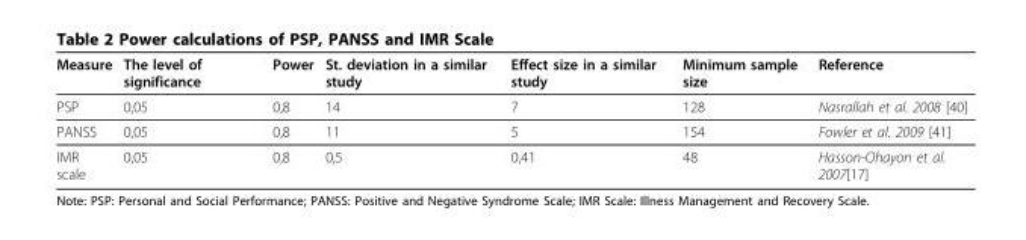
<table><thead><tr><td>Measure</td><td>The level of significance</td><td>Power</td><td>St. deviation in a similar study</td><td>Effect size in a similar study</td><td>Minimum sample size</td><td>Reference</td></tr></thead><tbody><tr><td>PSP</td><td>0,05</td><td>0,8</td><td>14</td><td>7</td><td>128</td><td>Nasrallah et al. 2008 [40]</td></tr><tr><td>PANSS</td><td>0,05</td><td>0,8</td><td>11</td><td>5</td><td>154</td><td>Fowler et al. 2009 [41]</td></tr><tr><td>IMR scale</td><td>0,05</td><td>0,8</td><td>0,5</td><td>0,41</td><td>48</td><td>Hasson-Ohayon et al. 2007[17]</td></tr></tbody></table>